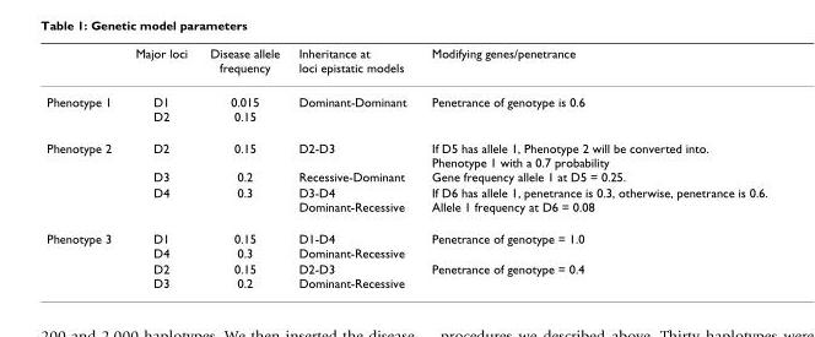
<table><thead><tr><td></td><td>Major loci</td><td>Disease allele frequency</td><td>Inheritance at loci epistatic models</td><td>Modifying genes/penetrance</td></tr></thead><tbody><tr><td>Phenotype 1</td><td>D1 D2</td><td>0.015 0.15</td><td>Dominant-Dominant</td><td>Penetrance of genotype is 0.6</td></tr><tr><td rowspan="2">Phenotype 2</td><td>D2 D3</td><td>0.15 0.2</td><td>D2-D3 Recessive-Dominant</td><td>If D5 has allele 1, Phenotype 2 will be converted into. Phenotype 1 with a 0.7 probability Gene frequency allele 1 at D5 = 0.25.</td></tr><tr><td>D4</td><td>0.3</td><td>D3-D4 Dominant-Recessive</td><td>If D6 has allele 1, penetrance is 0.3, otherwise, penetrance is 0.6. Allele 1 frequency at D6 = 0.08</td></tr><tr><td rowspan="2">Phenotype 3</td><td>D1 D4</td><td>0.15 0.3</td><td>D1-D4 Dominant-Recessive</td><td>Penetrance of genotype = 1.0</td></tr><tr><td>D2 D3</td><td>0.15 0.2</td><td>D2-D3 Dominant-Recessive</td><td>Penetrance of genotype = 0.4</td></tr></tbody></table>